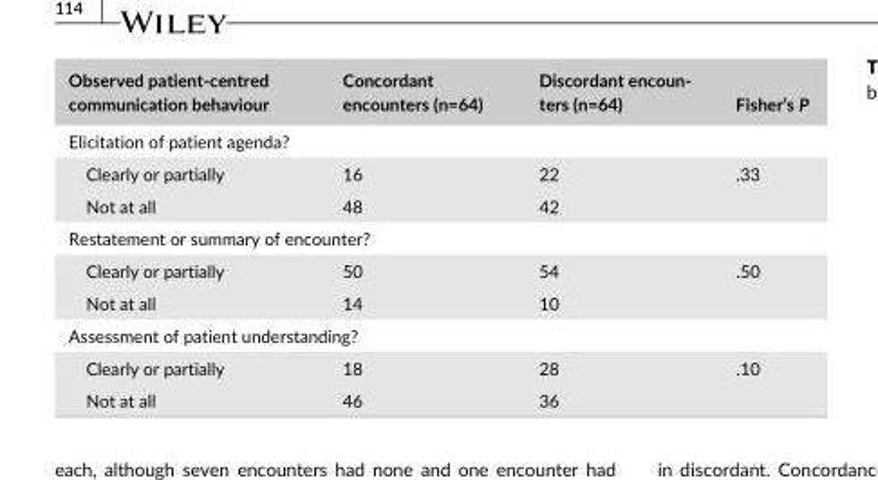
<table><thead><tr><td>Observed patient- centred communication behaviour</td><td>Concordant encounters (n=64)</td><td>Discordant encoun- ters (n=64)</td><td>Fisher’s P</td></tr></thead><tbody><tr><td colspan="4">Elicitation of patient agenda?</td></tr><tr><td>Clearly or partially</td><td>16</td><td>22</td><td rowspan="2">.33</td></tr><tr><td>Not at all</td><td>48</td><td>42</td></tr><tr><td colspan="4">Restatement or summary of encounter?</td></tr><tr><td>Clearly or partially</td><td>50</td><td>54</td><td rowspan="2">.50</td></tr><tr><td>Not at all</td><td>14</td><td>10</td></tr><tr><td colspan="4">Assessment of patient understanding?</td></tr><tr><td>Clearly or partially</td><td>18</td><td>28</td><td rowspan="2">.10</td></tr><tr><td>Not at all</td><td>46</td><td>36</td></tr></tbody></table>